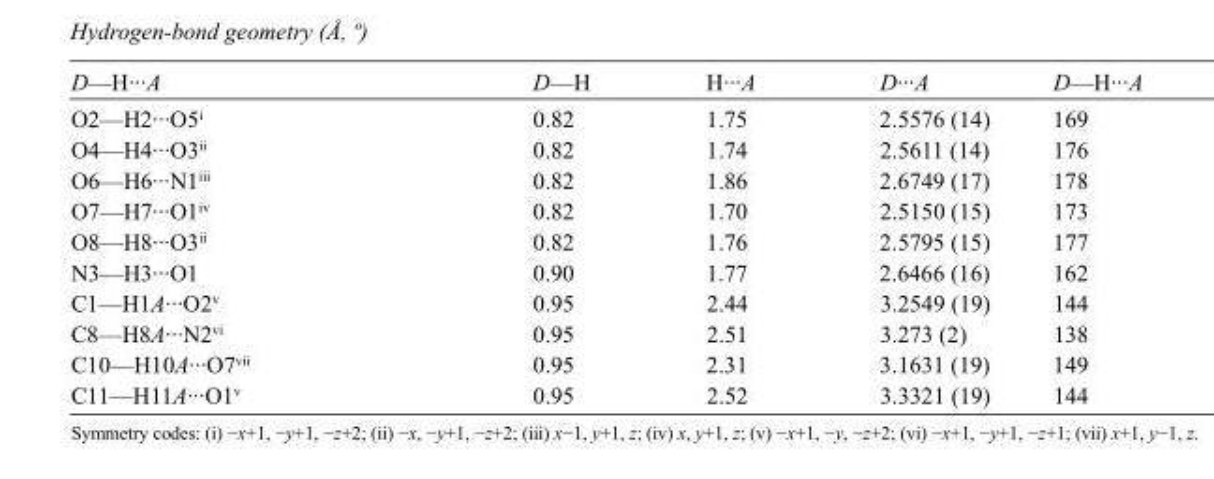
<table><tbody><tr><td>D—H···A</td><td>D—H</td><td>H···A</td><td>D···A</td><td>D—H···A</td></tr><tr><td>O2—H2···O5<sup>i</sup></td><td>0.82</td><td>1.75</td><td>2.5576 (14)</td><td>169</td></tr><tr><td>O4—H4···O3<sup>ii</sup></td><td>0.82</td><td>1.74</td><td>2.5611 (14)</td><td>176</td></tr><tr><td>O6—H6···N1<sup>iii</sup></td><td>0.82</td><td>1.86</td><td>2.6749 (17)</td><td>178</td></tr><tr><td>O7—H7···O1<sup>iv</sup></td><td>0.82</td><td>1.70</td><td>2.5150 (15)</td><td>173</td></tr><tr><td>O8—H8···O3<sup>ii</sup></td><td>0.82</td><td>1.76</td><td>2.5795 (15)</td><td>177</td></tr><tr><td>N3—H3···O1</td><td>0.90</td><td>1.77</td><td>2.6466 (16)</td><td>162</td></tr><tr><td>C1—H1A···O2<sup>v</sup></td><td>0.95</td><td>2.44</td><td>3.2549 (19)</td><td>144</td></tr><tr><td>C8—H8A···N2<sup>vi</sup></td><td>0.95</td><td>2.51</td><td>3.273 (2)</td><td>138</td></tr><tr><td>C10—H10A···O7<sup>vii</sup></td><td>0.95</td><td>2.31</td><td>3.1631 (19)</td><td>149</td></tr><tr><td>C11—H11A···O1<sup>v</sup></td><td>0.95</td><td>2.52</td><td>3.3321 (19)</td><td>144</td></tr></tbody></table>